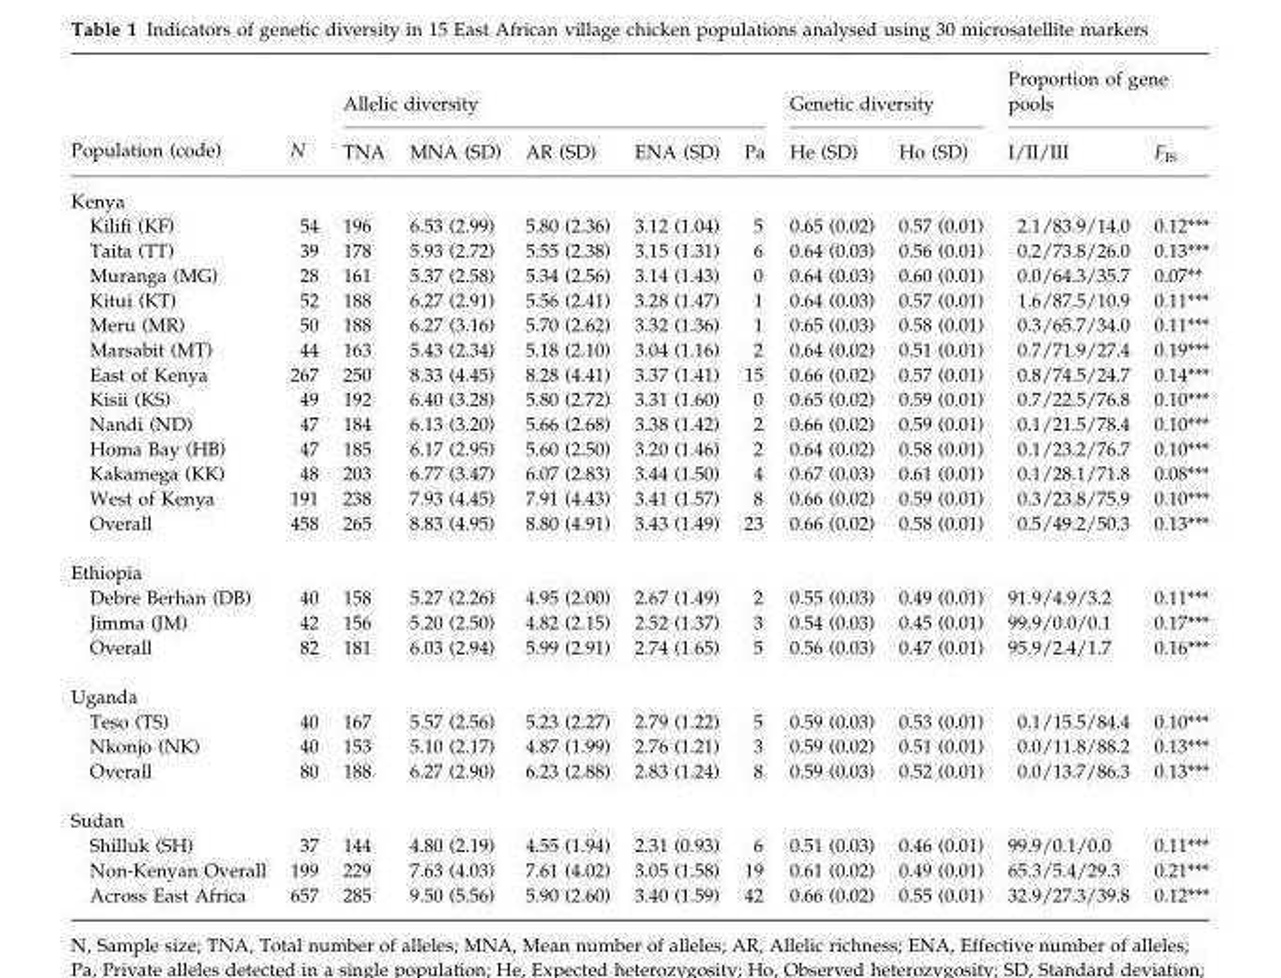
<table><thead><tr><td rowspan="2">Population (code)</td><td rowspan="2">N</td><td colspan="5">Allelic diversity</td><td colspan="2">Genetic diversity</td><td colspan="2">Proportion of gene pools</td></tr><tr><td>TNA</td><td>MNA (SD)</td><td>AR (SD)</td><td>ENA (SD)</td><td>Pa</td><td>He (SD)</td><td>Ho (SD)</td><td>I/II/III</td><td>F<sub>IS</sub></td></tr></thead><tbody><tr><td colspan="11">Kenya</td></tr><tr><td>Kilifi (KF)</td><td>54</td><td>196</td><td>6.53 (2.99)</td><td>5.80 (2.36)</td><td>3.12 (1.04)</td><td>5</td><td>0.65 (0.02)</td><td>0.57 (0.01)</td><td>2.1/83.9/14.0</td><td>0.12***</td></tr><tr><td>Taita (TT)</td><td>39</td><td>178</td><td>5.93 (2.72)</td><td>5.55 (2.38)</td><td>3.15 (1.31)</td><td>6</td><td>0.64 (0.03)</td><td>0.56 (0.01)</td><td>0.2/73.8/26.0</td><td>0.13***</td></tr><tr><td>Muranga (MG)</td><td>28</td><td>161</td><td>5.37 (2.58)</td><td>5.34 (2.56)</td><td>3.14 (1.43)</td><td>0</td><td>0.64 (0.03)</td><td>0.60 (0.01)</td><td>0.0/64.3/35.7</td><td>0.07**</td></tr><tr><td>Kitui (KT)</td><td>52</td><td>188</td><td>6.27 (2.91)</td><td>5.56 (2.41)</td><td>3.28 (1.47)</td><td>1</td><td>0.64 (0.03)</td><td>0.57 (0.01)</td><td>1.6/87.5/10.9</td><td>0.11***</td></tr><tr><td>Meru (MR)</td><td>50</td><td>188</td><td>6.27 (3.16)</td><td>5.70 (2.62)</td><td>3.32 (1.36)</td><td>1</td><td>0.65 (0.03)</td><td>0.58 (0.01)</td><td>0.3/65.7/34.0</td><td>0.11***</td></tr><tr><td>Marsabit (MT)</td><td>44</td><td>163</td><td>5.43 (2.34)</td><td>5.18 (2.10)</td><td>3.04 (1.16)</td><td>2</td><td>0.64 (0.02)</td><td>0.51 (0.01)</td><td>0.7/71.9/27.4</td><td>0.19***</td></tr><tr><td>East of Kenya</td><td>267</td><td>250</td><td>8.33 (4.45)</td><td>8.28 (4.41)</td><td>3.37 (1.41)</td><td>15</td><td>0.66 (0.02)</td><td>0.57 (0.01)</td><td>0.8/74.5/24.7</td><td>0.14***</td></tr><tr><td>Kisii (KS)</td><td>49</td><td>192</td><td>6.40 (3.28)</td><td>5.80 (2.72)</td><td>3.31 (1.60)</td><td>0</td><td>0.65 (0.02)</td><td>0.59 (0.01)</td><td>0.7/22.5/76.8</td><td>0.10***</td></tr><tr><td>Nandi (ND)</td><td>47</td><td>184</td><td>6.13 (3.20)</td><td>5.66 (2.68)</td><td>3.38 (1.42)</td><td>2</td><td>0.66 (0.02)</td><td>0.59 (0.01)</td><td>0.1/21.5/78.4</td><td>0.10***</td></tr><tr><td>Homa Bay (HB)</td><td>47</td><td>185</td><td>6.17 (2.95)</td><td>5.60 (2.50)</td><td>3.20 (1.46)</td><td>2</td><td>0.64 (0.02)</td><td>0.58 (0.01)</td><td>0.1/23.2/76.7</td><td>0.10***</td></tr><tr><td>Kakamega (KK)</td><td>48</td><td>203</td><td>6.77 (3.47)</td><td>6.07 (2.83)</td><td>3.44 (1.50)</td><td>4</td><td>0.67 (0.03)</td><td>0.61 (0.01)</td><td>0.1/28.1/71.8</td><td>0.08***</td></tr><tr><td>West of Kenya</td><td>191</td><td>238</td><td>7.93 (4.45)</td><td>7.91 (4.43)</td><td>3.41 (1.57)</td><td>8</td><td>0.66 (0.02)</td><td>0.59 (0.01)</td><td>0.3/23.8/75.9</td><td>0.10***</td></tr><tr><td>Overall</td><td>458</td><td>265</td><td>8.83 (4.95)</td><td>8.80 (4.91)</td><td>3.43 (1.49)</td><td>23</td><td>0.66 (0.02)</td><td>0.58 (0.01)</td><td>0.5/49.2/50.3</td><td>0.13***</td></tr><tr><td colspan="11">Ethiopia</td></tr><tr><td>Debre Berhan (DB)</td><td>40</td><td>158</td><td>5.27 (2.26)</td><td>4.95 (2.00)</td><td>2.67 (1.49)</td><td>2</td><td>0.55 (0.03)</td><td>0.49 (0.01)</td><td>91.9/4.9/3.2</td><td>0.11***</td></tr><tr><td>Jimma (JM)</td><td>42</td><td>156</td><td>5.20 (2.50)</td><td>4.82 (2.15)</td><td>2.52 (1.37)</td><td>3</td><td>0.54 (0.03)</td><td>0.45 (0.01)</td><td>99.9/0.0/0.1</td><td>0.17***</td></tr><tr><td>Overall</td><td>82</td><td>181</td><td>6.03 (2.94)</td><td>5.99 (2.91)</td><td>2.74 (1.65)</td><td>5</td><td>0.56 (0.03)</td><td>0.47 (0.01)</td><td>95.9/2.4/1.7</td><td>0.16***</td></tr><tr><td colspan="11">Uganda</td></tr><tr><td>Teso (TS)</td><td>40</td><td>167</td><td>5.57 (2.56)</td><td>5.23 (2.27)</td><td>2.79 (1.22)</td><td>5</td><td>0.59 (0.03)</td><td>0.53 (0.01)</td><td>0.1/15.5/84.4</td><td>0.10***</td></tr><tr><td>Nkonjo (NK)</td><td>40</td><td>153</td><td>5.10 (2.17)</td><td>4.87 (1.99)</td><td>2.76 (1.21)</td><td>3</td><td>0.59 (0.02)</td><td>0.51 (0.01)</td><td>0.0/11.8/88.2</td><td>0.13***</td></tr><tr><td>Overall</td><td>80</td><td>188</td><td>6.27 (2.90)</td><td>6.23 (2.88)</td><td>2.83 (1.24)</td><td>8</td><td>0.59 (0.03)</td><td>0.52 (0.01)</td><td>0.0/13.7/86.3</td><td>0.13***</td></tr><tr><td colspan="11">Sudan</td></tr><tr><td>Shilluk (SH)</td><td>37</td><td>144</td><td>4.80 (2.19)</td><td>4.55 (1.94)</td><td>2.31 (0.93)</td><td>6</td><td>0.51 (0.03)</td><td>0.46 (0.01)</td><td>99.9/0.1/0.0</td><td>0.11***</td></tr><tr><td>Non-Kenyan Overall</td><td>199</td><td>229</td><td>7.63 (4.03)</td><td>7.61 (4.02)</td><td>3.05 (1.58)</td><td>19</td><td>0.61 (0.02)</td><td>0.49 (0.01)</td><td>65.3/5.4/29.3</td><td>0.21***</td></tr><tr><td>Across East Africa</td><td>657</td><td>285</td><td>9.50 (5.56)</td><td>5.90 (2.60)</td><td>3.40 (1.59)</td><td>42</td><td>0.66 (0.02)</td><td>0.55 (0.01)</td><td>32.9/27.3/39.8</td><td>0.12***</td></tr></tbody></table>